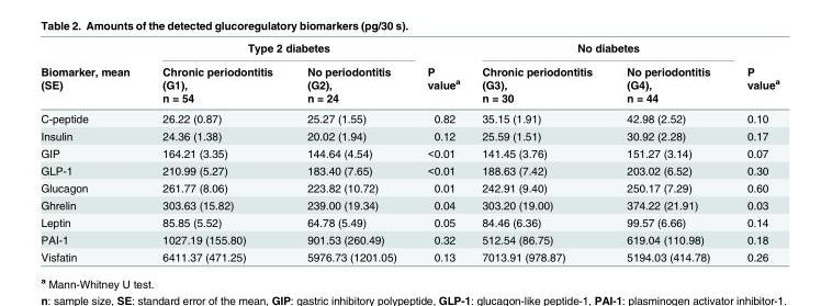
<table><thead><tr><td rowspan="3">Biomarker, mean (SE)</td><td colspan="2">Type 2 diabetes</td><td rowspan="3">P value<sup>a</sup></td><td colspan="2">No diabetes</td><td rowspan="3">P value<sup>a</sup></td></tr><tr><td rowspan="2">Chronic periodontitis (G1), n = 54</td><td rowspan="2">No periodontitis (G2), n = 24</td><td rowspan="2">Chronic periodontitis (G3), n = 30</td><td rowspan="2">No periodontitis (G4), n = 44</td></tr><tr></tr></thead><tbody><tr><td>C-peptide</td><td>26.22 (0.87)</td><td>25.27 (1.55)</td><td>0.82</td><td>35.15 (1.91)</td><td>42.98 (2.52)</td><td>0.10</td></tr><tr><td>Insulin</td><td>24.36 (1.38)</td><td>20.02 (1.94)</td><td>0.12</td><td>25.59 (1.51)</td><td>30.92 (2.28)</td><td>0.17</td></tr><tr><td>GIP</td><td>164.21 (3.35)</td><td>144.64 (4.54)</td><td>&lt;0.01</td><td>141.45 (3.76)</td><td>151.27 (3.14)</td><td>0.07</td></tr><tr><td>GLP-1</td><td>210.99 (5.27)</td><td>183.40 (7.65)</td><td>&lt;0.01</td><td>188.63 (7.42)</td><td>203.02 (6.52)</td><td>0.30</td></tr><tr><td>Glucagon</td><td>261.77 (8.06)</td><td>223.82 (10.72)</td><td>0.01</td><td>242.91 (9.40)</td><td>250.17 (7.29)</td><td>0.60</td></tr><tr><td>Ghrelin</td><td>303.63 (15.82)</td><td>239.00 (19.34)</td><td>0.04</td><td>303.20 (19.00)</td><td>374.22 (21.91)</td><td>0.03</td></tr><tr><td>Leptin</td><td>85.85 (5.52)</td><td>64.78 (5.49)</td><td>0.05</td><td>84.46 (6.36)</td><td>99.57 (6.66)</td><td>0.14</td></tr><tr><td>PAI-1</td><td>1027.19 (155.80)</td><td>901.53 (260.49)</td><td>0.32</td><td>512.54 (86.75)</td><td>619.04 (110.98)</td><td>0.18</td></tr><tr><td>Visfatin</td><td>6411.37 (471.25)</td><td>5976.73 (1201.05)</td><td>0.13</td><td>7013.91 (978.87)</td><td>5194.03 (414.78)</td><td>0.26</td></tr></tbody></table>